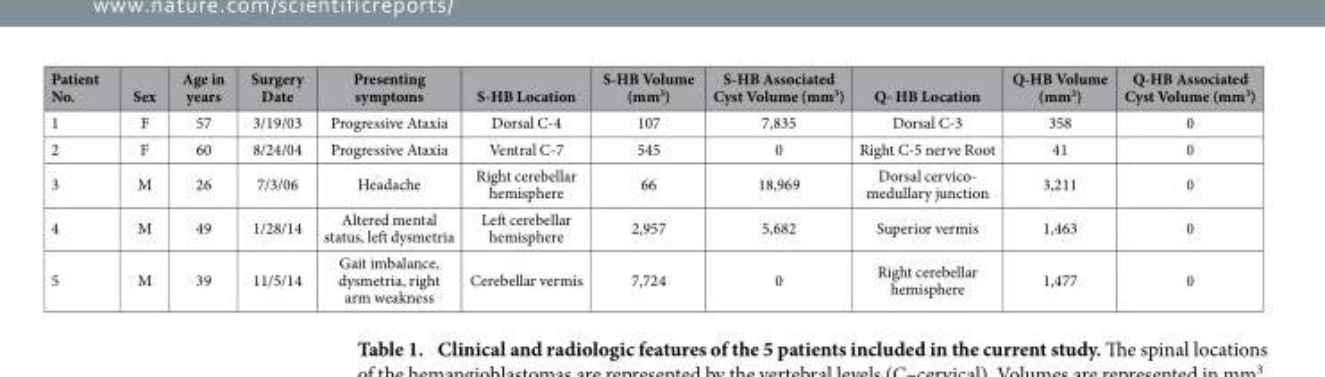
<table><thead><tr><td>Patient No.</td><td>Sex</td><td>Age in years</td><td>Surgery Date</td><td>Presenting symptoms</td><td>S-HB Location</td><td>S-HB Volume (mm<sup>3</sup>)</td><td>S-HB Associated Cyst Volume (mm<sup>3</sup>)</td><td>Q- HB Location</td><td>Q-HB Volume (mm<sup>3</sup>)</td><td>Q-HB Associated Cyst Volume (mm<sup>3</sup>)</td></tr></thead><tbody><tr><td>1</td><td>F</td><td>57</td><td>3/19/03</td><td>Progressive Ataxia</td><td>Dorsal C-4</td><td>107</td><td>7,835</td><td>Dorsal C-3</td><td>358</td><td>0</td></tr><tr><td>2</td><td>F</td><td>60</td><td>8/24/04</td><td>Progressive Ataxia</td><td>Ventral C-7</td><td>545</td><td>0</td><td>Right C-5 nerve Root</td><td>41</td><td>0</td></tr><tr><td>3</td><td>M</td><td>26</td><td>7/3/06</td><td>Headache</td><td>Right cerebellar hemisphere</td><td>66</td><td>18,969</td><td>Dorsal cervico- medullary junction</td><td>3,211</td><td>0</td></tr><tr><td>4</td><td>M</td><td>49</td><td>1/28/14</td><td>Altered mental status, left dysmetria</td><td>Left cerebellar hemisphere</td><td>2,957</td><td>5,682</td><td>Superior vermis</td><td>1,463</td><td>0</td></tr><tr><td>5</td><td>M</td><td>39</td><td>11/5/14</td><td>Gait imbalance, dysmetria, right arm weakness</td><td>Cerebellar vermis</td><td>7,724</td><td>0</td><td>Right cerebellar hemisphere</td><td>1,477</td><td>0</td></tr></tbody></table>